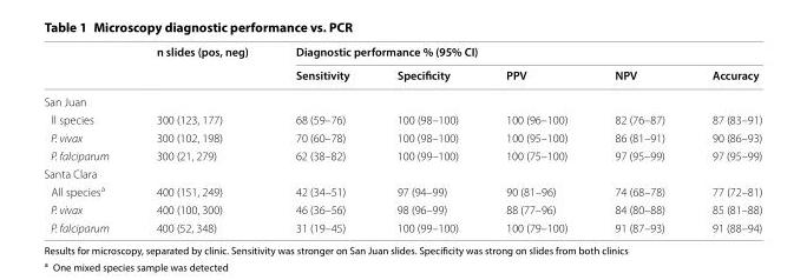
<table><thead><tr><td rowspan="2"></td><td rowspan="2">n slides (pos, neg)</td><td colspan="5">Diagnostic performance % (95% CI)</td></tr><tr><td>Sensitivity</td><td>Specificity</td><td>PPV</td><td>NPV</td><td>Accuracy</td></tr></thead><tbody><tr><td colspan="7">San Juan</td></tr><tr><td>ll species</td><td>300 (123, 177)</td><td>68 (59–76)</td><td>100 (98–100)</td><td>100 (96–100)</td><td>82 (76–87)</td><td>87 (83–91)</td></tr><tr><td>P. vivax</td><td>300 (102, 198)</td><td>70 (60–78)</td><td>100 (98–100)</td><td>100 (95–100)</td><td>86 (81–91)</td><td>90 (86–93)</td></tr><tr><td>P. falciparum</td><td>300 (21, 279)</td><td>62 (38–82)</td><td>100 (99–100)</td><td>100 (75–100)</td><td>97 (95–99)</td><td>97 (95–99)</td></tr><tr><td colspan="7">Santa Clara</td></tr><tr><td>All species<sup>a</sup></td><td>400 (151, 249)</td><td>42 (34–51)</td><td>97 (94–99)</td><td>90 (81–96)</td><td>74 (68–78)</td><td>77 (72–81)</td></tr><tr><td>P. vivax</td><td>400 (100, 300)</td><td>46 (36–56)</td><td>98 (96–99)</td><td>88 (77–96)</td><td>84 (80–88)</td><td>85 (81–88)</td></tr><tr><td>P. falciparum</td><td>400 (52, 348)</td><td>31 (19–45)</td><td>100 (99–100)</td><td>100 (79–100)</td><td>91 (87–93)</td><td>91 (88–94)</td></tr></tbody></table>